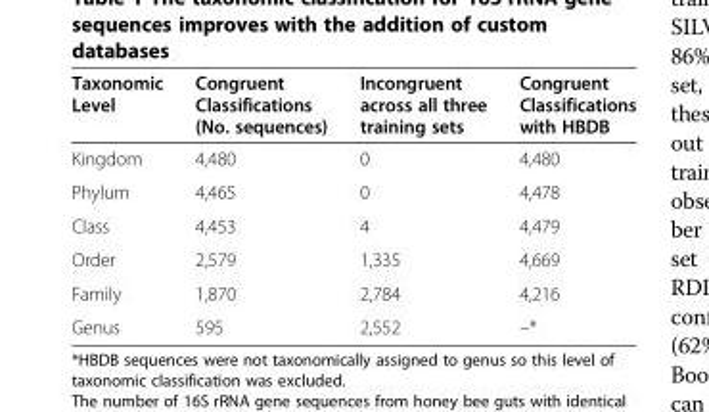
<table><thead><tr><td>Taxonomic Level</td><td>Congruent Classifications (No. sequences)</td><td>Incongruent across all three training sets</td><td>Congruent Classifications with HBDB</td></tr></thead><tbody><tr><td>Kingdom</td><td>4,480</td><td>0</td><td>4,480</td></tr><tr><td>Phylum</td><td>4,465</td><td>0</td><td>4,478</td></tr><tr><td>Class</td><td>4,453</td><td>4</td><td>4,479</td></tr><tr><td>Order</td><td>2,579</td><td>1,335</td><td>4,669</td></tr><tr><td>Family</td><td>1,870</td><td>2,784</td><td>4,216</td></tr><tr><td>Genus</td><td>595</td><td>2,552</td><td>–*</td></tr></tbody></table>